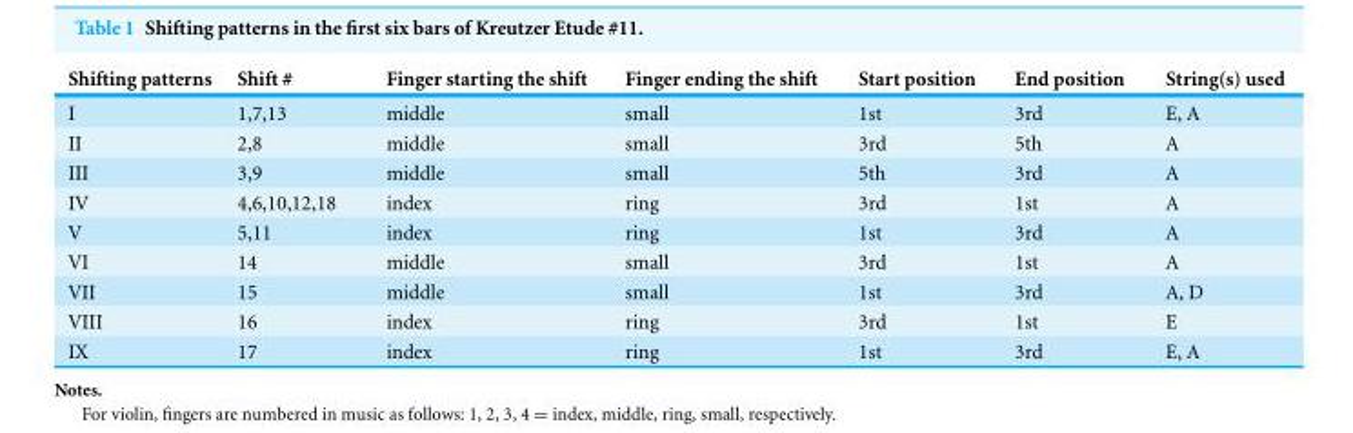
<table><thead><tr><td>Shifting patterns</td><td>Shift #</td><td>Finger starting the shift</td><td>Finger ending the shift</td><td>Start position</td><td>End position</td><td>String(s) used</td></tr></thead><tbody><tr><td>I</td><td>1,7,13</td><td>middle</td><td>small</td><td>1st</td><td>3rd</td><td>E, A</td></tr><tr><td>II</td><td>2,8</td><td>middle</td><td>small</td><td>3rd</td><td>5th</td><td>A</td></tr><tr><td>III</td><td>3,9</td><td>middle</td><td>small</td><td>5th</td><td>3rd</td><td>A</td></tr><tr><td>IV</td><td>4,6,10,12,18</td><td>index</td><td>ring</td><td>3rd</td><td>1st</td><td>A</td></tr><tr><td>V</td><td>5,11</td><td>index</td><td>ring</td><td>1st</td><td>3rd</td><td>A</td></tr><tr><td>VI</td><td>14</td><td>middle</td><td>small</td><td>3rd</td><td>1st</td><td>A</td></tr><tr><td>VII</td><td>15</td><td>middle</td><td>small</td><td>1st</td><td>3rd</td><td>A, D</td></tr><tr><td>VIII</td><td>16</td><td>index</td><td>ring</td><td>3rd</td><td>1st</td><td>E</td></tr><tr><td>IX</td><td>17</td><td>index</td><td>ring</td><td>1st</td><td>3rd</td><td>E, A</td></tr></tbody></table>